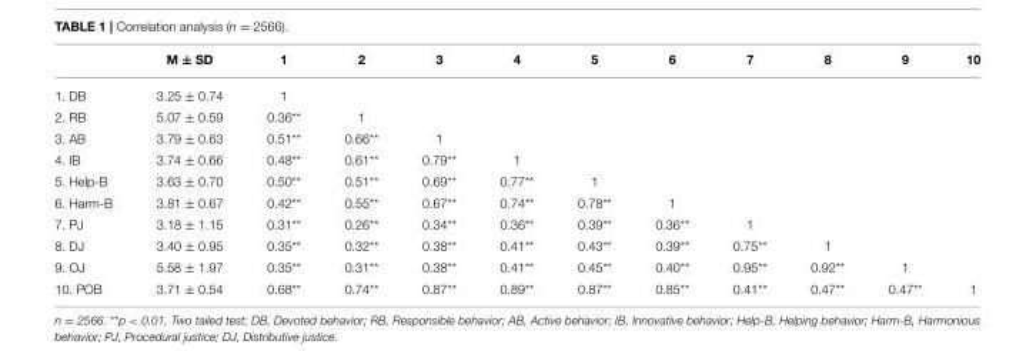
<table><thead><tr><td></td><td>M ± SD</td><td>1</td><td>2</td><td>3</td><td>4</td><td>5</td><td>6</td><td>7</td><td>8</td><td>9</td><td>10</td></tr></thead><tbody><tr><td>1. DB</td><td>3.25 ± 0.74</td><td>1</td><td></td><td></td><td></td><td></td><td></td><td></td><td></td><td></td><td></td></tr><tr><td>2. RB</td><td>5.07 ± 0.59</td><td>0.36**</td><td>1</td><td></td><td></td><td></td><td></td><td></td><td></td><td></td><td></td></tr><tr><td>3. AB</td><td>3.79 ± 0.63</td><td>0.51**</td><td>0.66**</td><td>1</td><td></td><td></td><td></td><td></td><td></td><td></td><td></td></tr><tr><td>4. IB</td><td>3.74 ± 0.66</td><td>0.48**</td><td>0.61**</td><td>0.79**</td><td>1</td><td></td><td></td><td></td><td></td><td></td><td></td></tr><tr><td>5. Help-B</td><td>3.63 ± 0.70</td><td>0.50**</td><td>0.51**</td><td>0.69**</td><td>0.77**</td><td>1</td><td></td><td></td><td></td><td></td><td></td></tr><tr><td>6. Harm-B</td><td>3.81 ± 0.67</td><td>0.42**</td><td>0.55**</td><td>0.67**</td><td>0.74**</td><td>0.78**</td><td>1</td><td></td><td></td><td></td><td></td></tr><tr><td>7. PJ</td><td>3.18 ± 1.15</td><td>0.31**</td><td>0.26**</td><td>0.34**</td><td>0.36**</td><td>0.39**</td><td>0.36**</td><td>1</td><td></td><td></td><td></td></tr><tr><td>8. DJ</td><td>3.40 ± 0.95</td><td>0.35**</td><td>0.32**</td><td>0.38**</td><td>0.41**</td><td>0.43**</td><td>0.39**</td><td>0.75**</td><td>1</td><td></td><td></td></tr><tr><td>9. OJ</td><td>5.58 ± 1.97</td><td>0.35**</td><td>0.31**</td><td>0.38**</td><td>0.41**</td><td>0.45**</td><td>0.40**</td><td>0.95**</td><td>0.92**</td><td>1</td><td></td></tr><tr><td>10. POB</td><td>3.71 ± 0.54</td><td>0.68**</td><td>0.74**</td><td>0.87**</td><td>0.89**</td><td>0.87**</td><td>0.85**</td><td>0.41**</td><td>0.47**</td><td>0.47**</td><td>1</td></tr></tbody></table>